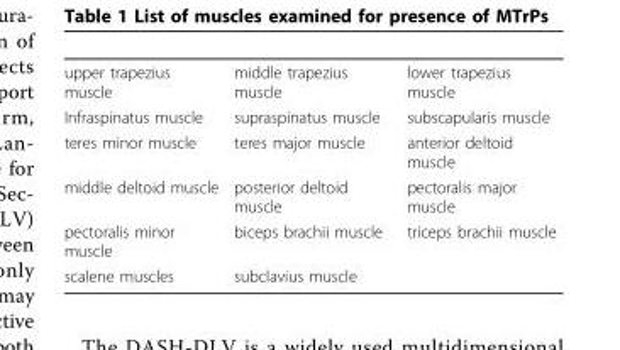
<table><tbody><tr><td>upper trapezius muscle</td><td>middle trapezius muscle</td><td>lower trapezius muscle</td></tr><tr><td>Infraspinatus muscle</td><td>supraspinatus muscle</td><td>subscapularis muscle</td></tr><tr><td>teres minor muscle</td><td>teres major muscle</td><td>anterior deltoid muscle</td></tr><tr><td>middle deltoid muscle</td><td>posterior deltoid muscle</td><td>pectoralis major muscle</td></tr><tr><td>pectoralis minor muscle</td><td>biceps brachii muscle</td><td>triceps brachii muscle</td></tr><tr><td>scalene muscles</td><td>subclavius muscle</td><td></td></tr></tbody></table>